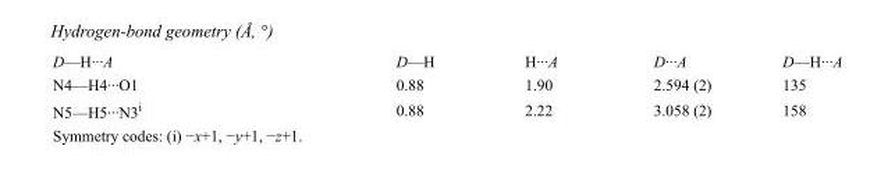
<table><tbody><tr><td>D—H···A</td><td>D—H</td><td>H···A</td><td>D···A</td><td>D—H···A</td></tr><tr><td>N4—H4···O1</td><td>0.88</td><td>1.90</td><td>2.594 (2)</td><td>135</td></tr><tr><td>N5—H5···N3<sup>i</sup></td><td>0.88</td><td>2.22</td><td>3.058 (2)</td><td>158</td></tr></tbody></table>